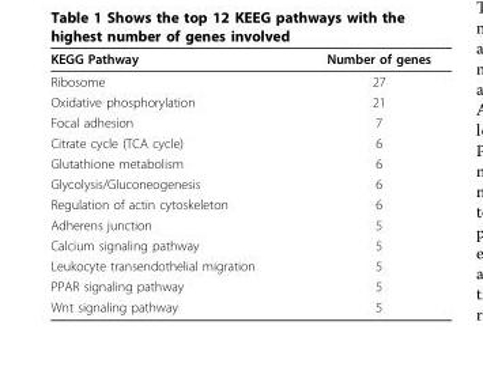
<table><thead><tr><td>KEGG Pathway</td><td>Number of genes</td></tr></thead><tbody><tr><td>Ribosome</td><td>27</td></tr><tr><td>Oxidative phosphorylation</td><td>21</td></tr><tr><td>Focal adhesion</td><td>7</td></tr><tr><td>Citrate cycle (TCA cycle)</td><td>6</td></tr><tr><td>Glutathione metabolism</td><td>6</td></tr><tr><td>Glycolysis/Gluconeogenesis</td><td>6</td></tr><tr><td>Regulation of actin cytoskeleton</td><td>6</td></tr><tr><td>Adherens junction</td><td>5</td></tr><tr><td>Calcium signaling pathway</td><td>5</td></tr><tr><td>Leukocyte transendothelial migration</td><td>5</td></tr><tr><td>PPAR signaling pathway</td><td>5</td></tr><tr><td>Wnt signaling pathway</td><td>5</td></tr></tbody></table>